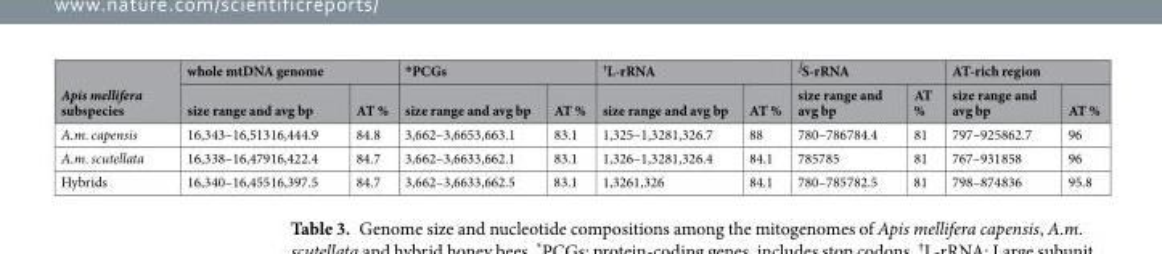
<table><thead><tr><td rowspan="2">Apis mellifera subspecies</td><td colspan="2">whole mtDNA genome</td><td colspan="2">*PCGs</td><td colspan="2"><sup>†</sup>L-rRNA</td><td colspan="2"><sup>∫</sup>S-rRNA</td><td colspan="2">AT-rich region</td></tr><tr><td>size range and avg bp</td><td>AT %</td><td>size range and avg bp</td><td>AT %</td><td>size range and avg bp</td><td>AT %</td><td>size range and avg bp</td><td>AT %</td><td>size range and avg bp</td><td>AT %</td></tr></thead><tbody><tr><td>A.m. capensis</td><td>16,343–16,51316,444.9</td><td>84.8</td><td>3,662–3,6653,663.1</td><td>83.1</td><td>1,325–1,3281,326.7</td><td>88</td><td>780–786784.4</td><td>81</td><td>797–925862.7</td><td>96</td></tr><tr><td>A.m. scutellata</td><td>16,338–16,47916,422.4</td><td>84.7</td><td>3,662–3,6633,662.1</td><td>83.1</td><td>1,326–1,3281,326.4</td><td>84.1</td><td>785785</td><td>81</td><td>767–931858</td><td>96</td></tr><tr><td>Hybrids</td><td>16,340–16,45516,397.5</td><td>84.7</td><td>3,662–3,6633,662.5</td><td>83.1</td><td>1,3261,326</td><td>84.1</td><td>780–785782.5</td><td>81</td><td>798–874836</td><td>95.8</td></tr></tbody></table>